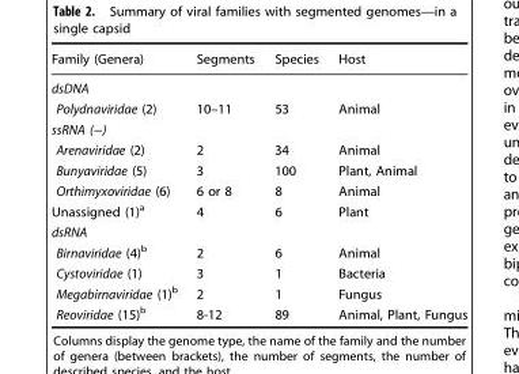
<table><thead><tr><td>Family (Genera)</td><td>Segments</td><td>Species</td><td>Host</td></tr></thead><tbody><tr><td colspan="4">dsDNA</td></tr><tr><td>Polydnaviridae (2)</td><td>10–11</td><td>53</td><td>Animal</td></tr><tr><td colspan="4">ssRNA (−)</td></tr><tr><td>Arenaviridae (2)</td><td>2</td><td>34</td><td>Animal</td></tr><tr><td>Bunyaviridae (5)</td><td>3</td><td>100</td><td>Plant, Animal</td></tr><tr><td>Orthimyxoviridae (6)</td><td>6 or 8</td><td>8</td><td>Animal</td></tr><tr><td>Unassigned (1)<sup>a</sup></td><td>4</td><td>6</td><td>Plant</td></tr><tr><td colspan="4">dsRNA</td></tr><tr><td>Birnaviridae (4)<sup>b</sup></td><td>2</td><td>6</td><td>Animal</td></tr><tr><td>Cystoviridae (1)</td><td>3</td><td>1</td><td>Bacteria</td></tr><tr><td>Megabirnaviridae (1)<sup>b</sup></td><td>2</td><td>1</td><td>Fungus</td></tr><tr><td>Reoviridae (15)<sup>b</sup></td><td>8-12</td><td>89</td><td>Animal, Plant, Fungus</td></tr></tbody></table>